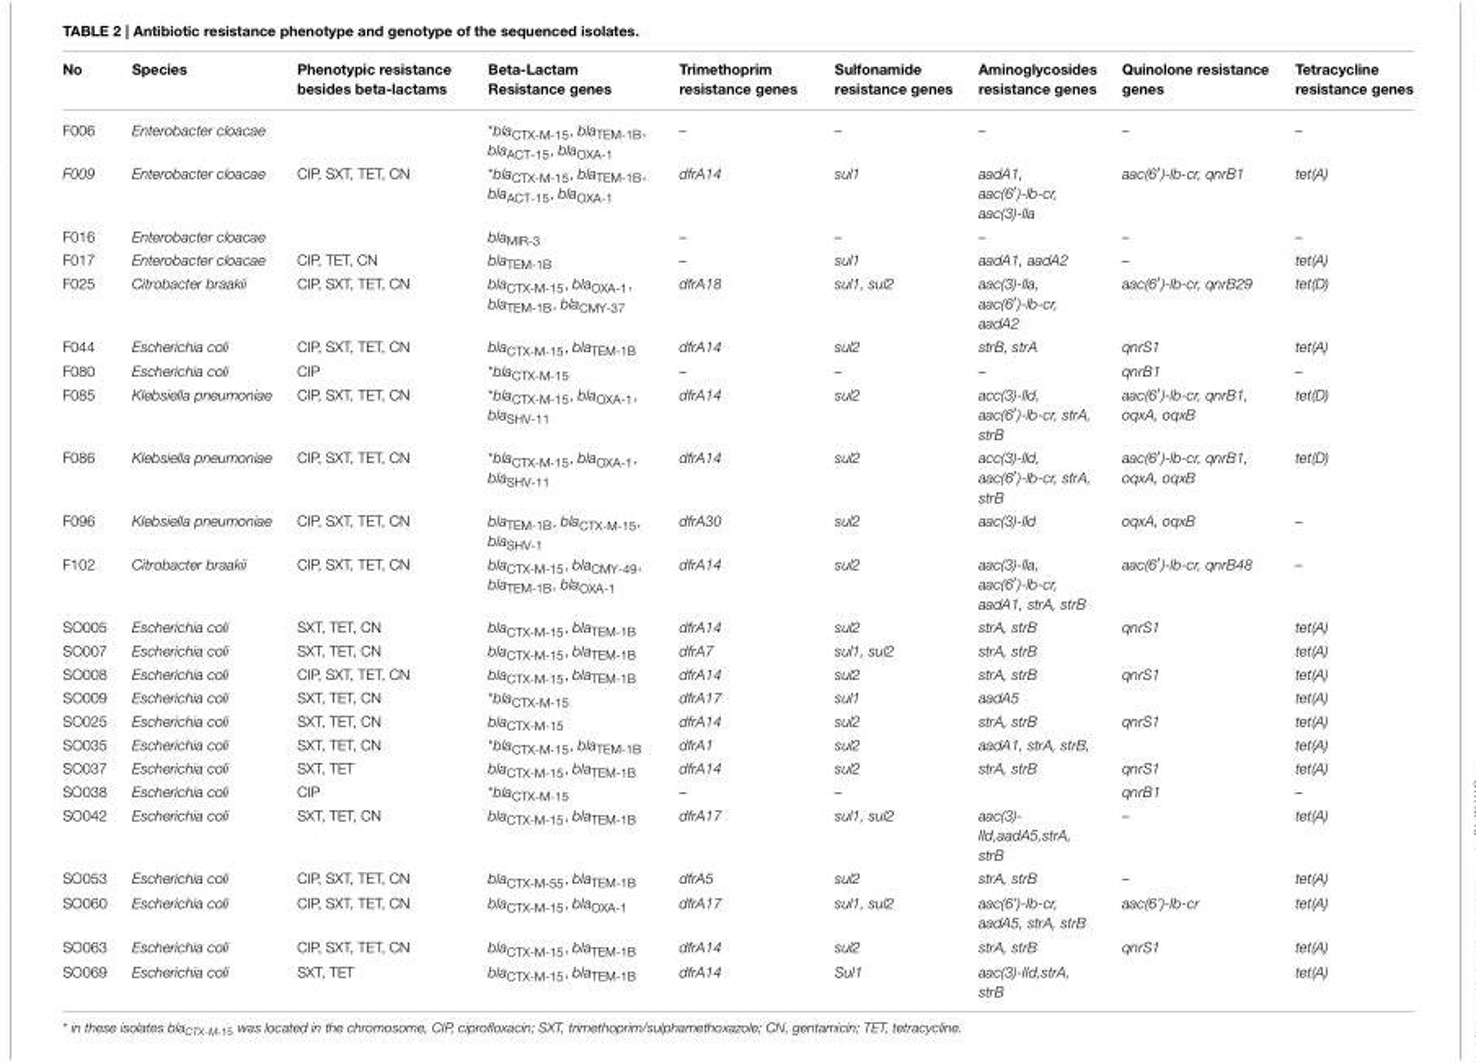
<table><thead><tr><td>No</td><td>Species</td><td>Phenotypic resistance besides beta-lactams</td><td>Beta-Lactam Resistance genes</td><td>Trimethoprim resistance genes</td><td>Sulfonamide resistance genes</td><td>Aminoglycosides resistance genes</td><td>Quinolone resistance genes</td><td>Tetracycline resistance genes</td></tr></thead><tbody><tr><td>F006</td><td>Enterobacter cloacae</td><td></td><td>*bla<sub>CTX-M-15</sub>, bla<sub>TEM-1B</sub>, bla<sub>ACT-15</sub>, bla<sub>OXA-1</sub></td><td>–</td><td>–</td><td>–</td><td>–</td><td>–</td></tr><tr><td>F009</td><td>Enterobacter cloacae</td><td>CIP, SXT, TET, CN</td><td>*bla<sub>CTX-M-15</sub>, bla<sub>TEM-1B</sub>, bla<sub>ACT-15</sub>, bla<sub>OXA-1</sub></td><td>dfrA14</td><td>sul1</td><td>aadA1, aac(6′)-lb-cr, aac(3)-lla</td><td>aac(6′)-lb-cr, qnrB1</td><td>tet(A)</td></tr><tr><td>F016</td><td>Enterobacter cloacae</td><td></td><td>bla<sub>MIR-3</sub></td><td>–</td><td>–</td><td>–</td><td>–</td><td>–</td></tr><tr><td>F017</td><td>Enterobacter cloacae</td><td>CIP, TET, CN</td><td>bla<sub>TEM-1B</sub></td><td>–</td><td>sul1</td><td>aadA1, aadA2</td><td>–</td><td>tet(A)</td></tr><tr><td>F025</td><td>Citrobacter braakii</td><td>CIP, SXT, TET, CN</td><td>bla<sub>CTX-M-15</sub>, bla<sub>OXA-1</sub>, bla<sub>TEM-1B</sub>, bla<sub>CMY-37</sub></td><td>dfrA18</td><td>sul1, sul2</td><td>aac(3)-lla, aac(6′)-lb-cr, aadA2</td><td>aac(6′)-lb-cr, qnrB29</td><td>tet(D)</td></tr><tr><td>F044</td><td>Escherichia coli</td><td>CIP, SXT, TET, CN</td><td>bla<sub>CTX-M-15</sub>, bla<sub>TEM-1B</sub></td><td>dfrA14</td><td>sul2</td><td>strB, strA</td><td>qnrS1</td><td>tet(A)</td></tr><tr><td>F080</td><td>Escherichia coli</td><td>CIP</td><td>*bla<sub>CTX-M-15</sub></td><td>–</td><td>–</td><td>–</td><td>qnrB1</td><td>–</td></tr><tr><td>F085</td><td>Klebsiella pneumoniae</td><td>CIP, SXT, TET, CN</td><td>*bla<sub>CTX-M-15</sub>, bla<sub>OXA-1</sub>, bla<sub>SHV-11</sub></td><td>dfrA14</td><td>sul2</td><td>acc(3)-lld, aac(6′)-lb-cr, strA, strB</td><td>aac(6′)-lb-cr, qnrB1, oqxA, oqxB</td><td>tet(D)</td></tr><tr><td>F086</td><td>Klebsiella pneumoniae</td><td>CIP, SXT, TET, CN</td><td>*bla<sub>CTX-M-15</sub>, bla<sub>OXA-1</sub>, bla<sub>SHV-11</sub></td><td>dfrA14</td><td>sul2</td><td>acc(3)-lld, aac(6′)-lb-cr, strA, strB</td><td>aac(6′)-lb-cr, qnrB1, oqxA, oqxB</td><td>tet(D)</td></tr><tr><td>F096</td><td>Klebsiella pneumoniae</td><td>CIP, SXT, TET, CN</td><td>bla<sub>TEM-1B</sub>, bla<sub>CTX-M-15</sub>, bla<sub>SHV-1</sub></td><td>dfrA30</td><td>sul2</td><td>aac(3)-lld</td><td>oqxA, oqxB</td><td>–</td></tr><tr><td>F102</td><td>Citrobacter braakii</td><td>CIP, SXT, TET, CN</td><td>bla<sub>CTX-M-15</sub>, bla<sub>CMY-49</sub>, bla<sub>TEM-1B</sub>, bla<sub>OXA-1</sub></td><td>dfrA14</td><td>sul2</td><td>aac(3)-lla, aac(6′)-lb-cr, aadA1, strA, strB</td><td>aac(6′)-lb-cr, qnrB48</td><td>–</td></tr><tr><td>SO005</td><td>Escherichia coli</td><td>SXT, TET, CN</td><td>bla<sub>CTX-M-15</sub>, bla<sub>TEM-1B</sub></td><td>dfrA14</td><td>sul2</td><td>strA, strB</td><td>qnrS1</td><td>tet(A)</td></tr><tr><td>SO007</td><td>Escherichia coli</td><td>SXT, TET, CN</td><td>bla<sub>CTX-M-15</sub>, bla<sub>TEM-1B</sub></td><td>dfrA7</td><td>sul1, sul2</td><td>strA, strB</td><td></td><td>tet(A)</td></tr><tr><td>SO008</td><td>Escherichia coli</td><td>CIP, SXT, TET, CN</td><td>bla<sub>CTX-M-15</sub>, bla<sub>TEM-1B</sub></td><td>dfrA14</td><td>sul2</td><td>strA, strB</td><td>qnrS1</td><td>tet(A)</td></tr><tr><td>SO009</td><td>Escherichia coli</td><td>SXT, TET, CN</td><td>*bla<sub>CTX-M-15</sub></td><td>dfrA17</td><td>sul1</td><td>aadA5</td><td></td><td>tet(A)</td></tr><tr><td>SO025</td><td>Escherichia coli</td><td>SXT, TET, CN</td><td>bla<sub>CTX-M-15</sub></td><td>dfrA14</td><td>sul2</td><td>strA, strB</td><td>qnrS1</td><td>tet(A)</td></tr><tr><td>SO035</td><td>Escherichia coli</td><td>SXT, TET, CN</td><td>*bla<sub>CTX-M-15</sub>, bla<sub>TEM-1B</sub></td><td>dfrA1</td><td>sul2</td><td>aadA1, strA, strB,</td><td></td><td>tet(A)</td></tr><tr><td>SO037</td><td>Escherichia coli</td><td>SXT, TET</td><td>bla<sub>CTX-M-15</sub>, bla<sub>TEM-1B</sub></td><td>dfrA14</td><td>sul2</td><td>strA, strB</td><td>qnrS1</td><td>tet(A)</td></tr><tr><td>SO038</td><td>Escherichia coli</td><td>CIP</td><td>*bla<sub>CTX-M-15</sub></td><td>–</td><td>–</td><td></td><td>qnrB1</td><td>–</td></tr><tr><td>SO042</td><td>Escherichia coli</td><td>SXT, TET, CN</td><td>bla<sub>CTX-M-15</sub>, bla<sub>TEM-1B</sub></td><td>dfrA17</td><td>sul1, sul2</td><td>aac(3)- IId,aadA5,strA, strB</td><td>–</td><td>tet(A)</td></tr><tr><td>SO053</td><td>Escherichia coli</td><td>CIP, SXT, TET, CN</td><td>bla<sub>CTX-M-55</sub>, bla<sub>TEM-1B</sub></td><td>dfrA5</td><td>sul2</td><td>strA, strB</td><td>–</td><td>tet(A)</td></tr><tr><td>SO060</td><td>Escherichia coli</td><td>CIP, SXT, TET, CN</td><td>bla<sub>CTX-M-15</sub>, bla<sub>OXA-1</sub></td><td>dfrA17</td><td>sul1, sul2</td><td>aac(6’)-Ib-cr, aadA5, strA, strB</td><td>aac(6’)-Ib-cr</td><td>tet(A)</td></tr><tr><td>SO063</td><td>Escherichia coli</td><td>CIP, SXT, TET, CN</td><td>bla<sub>CTX-M-15</sub>, bla<sub>TEM-1B</sub></td><td>dfrA14</td><td>sul2</td><td>strA, strB</td><td>qnrS1</td><td>tet(A)</td></tr><tr><td>SO069</td><td>Escherichia coli</td><td>SXT, TET</td><td>bla<sub>CTX-M-15</sub>, bla<sub>TEM-1B</sub></td><td>dfrA14</td><td>Sul1</td><td>aac(3)-IId,strA, strB</td><td></td><td>tet(A)</td></tr></tbody></table>